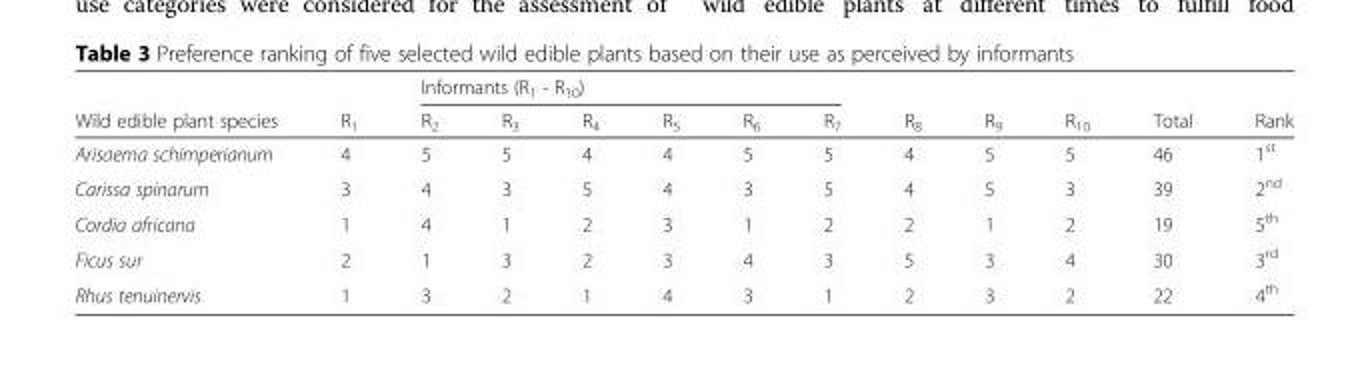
<table><thead><tr><td rowspan="2">Wild edible plant species</td><td rowspan="2">R<sub>1</sub></td><td colspan="6">Informants (R<sub>1</sub> - R<sub>10</sub>)</td><td rowspan="2">R<sub>8</sub></td><td rowspan="2">R<sub>9</sub></td><td rowspan="2">R<sub>10</sub></td><td rowspan="2">Total</td><td rowspan="2">Rank</td></tr><tr><td>R<sub>2</sub></td><td>R<sub>3</sub></td><td>R<sub>4</sub></td><td>R<sub>5</sub></td><td>R<sub>6</sub></td><td>R<sub>7</sub></td></tr></thead><tbody><tr><td>Arisaema schimperianum</td><td>4</td><td>5</td><td>5</td><td>4</td><td>4</td><td>5</td><td>5</td><td>4</td><td>5</td><td>5</td><td>46</td><td>1<sup>st</sup></td></tr><tr><td>Carissa spinarum</td><td>3</td><td>4</td><td>3</td><td>5</td><td>4</td><td>3</td><td>5</td><td>4</td><td>5</td><td>3</td><td>39</td><td>2<sup>nd</sup></td></tr><tr><td>Cordia africana</td><td>1</td><td>4</td><td>1</td><td>2</td><td>3</td><td>1</td><td>2</td><td>2</td><td>1</td><td>2</td><td>19</td><td>5<sup>th</sup></td></tr><tr><td>Ficus sur</td><td>2</td><td>1</td><td>3</td><td>2</td><td>3</td><td>4</td><td>3</td><td>5</td><td>3</td><td>4</td><td>30</td><td>3<sup>rd</sup></td></tr><tr><td>Rhus tenuinervis</td><td>1</td><td>3</td><td>2</td><td>1</td><td>4</td><td>3</td><td>1</td><td>2</td><td>3</td><td>2</td><td>22</td><td>4<sup>th</sup></td></tr></tbody></table>